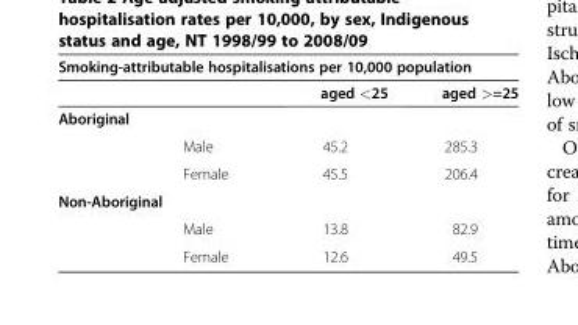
<table><thead><tr><td colspan="4">Smoking-attributable hospitalisations per 10,000 population</td></tr><tr><td></td><td></td><td>aged &lt;25</td><td>aged &gt;=25</td></tr></thead><tbody><tr><td colspan="4">Aboriginal</td></tr><tr><td></td><td>Male</td><td>45.2</td><td>285.3</td></tr><tr><td></td><td>Female</td><td>45.5</td><td>206.4</td></tr><tr><td colspan="4">Non-Aboriginal</td></tr><tr><td></td><td>Male</td><td>13.8</td><td>82.9</td></tr><tr><td></td><td>Female</td><td>12.6</td><td>49.5</td></tr></tbody></table>